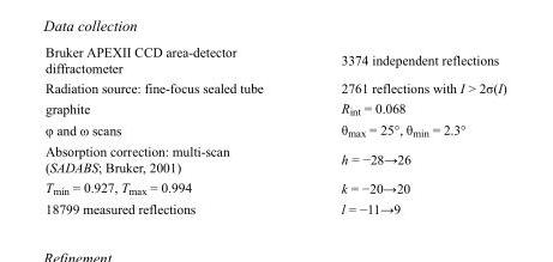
<table><tbody><tr><td>Bruker APEXII CCD area-detector diffractometer</td><td>3374 independent reflections</td></tr><tr><td>Radiation source: fine-focus sealed tube</td><td>2761 reflections with I &gt; 2σ(I)</td></tr><tr><td>graphite</td><td>R<sub>int</sub> = 0.068</td></tr><tr><td>φ and ω scans</td><td>θ<sub>max</sub> = 25°, θ<sub>min</sub> = 2.3°</td></tr><tr><td>Absorption correction: multi-scan (SADABS; Bruker, 2001)</td><td>h = −28→26</td></tr><tr><td>T<sub>min</sub> = 0.927, T<sub>max</sub> = 0.994</td><td>k = −20→20</td></tr><tr><td>18799 measured reflections</td><td>l = −11→9</td></tr></tbody></table>